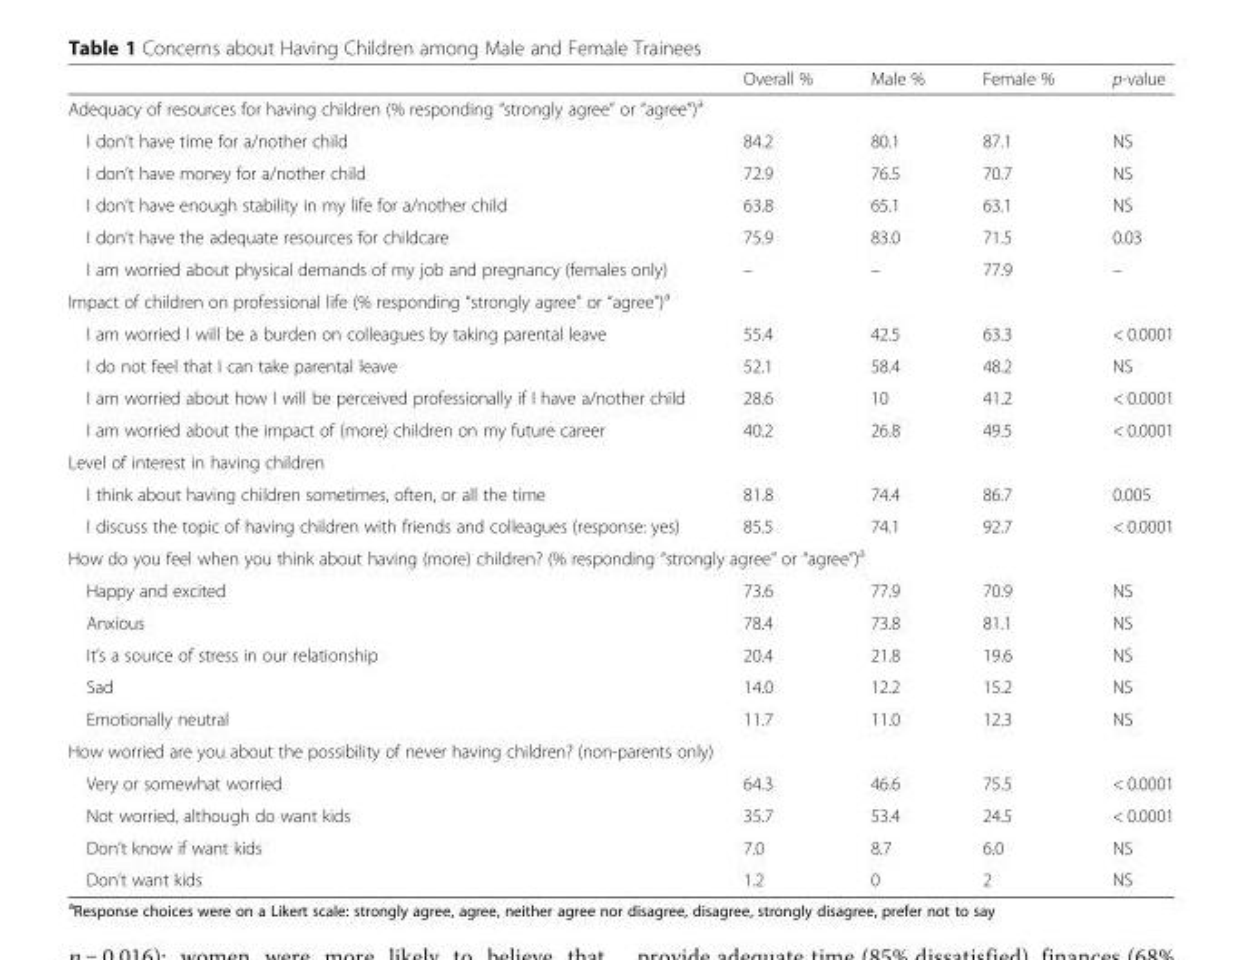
<table><thead><tr><td></td><td>Overall %</td><td>Male %</td><td>Female %</td><td>p-value</td></tr></thead><tbody><tr><td colspan="5">Adequacy of resources for having children (% responding “strongly agree” or “agree”)<sup>a</sup></td></tr><tr><td>I don’t have time for a/nother child</td><td>84.2</td><td>80.1</td><td>87.1</td><td>NS</td></tr><tr><td>I don’t have money for a/nother child</td><td>72.9</td><td>76.5</td><td>70.7</td><td>NS</td></tr><tr><td>I don’t have enough stability in my life for a/nother child</td><td>63.8</td><td>65.1</td><td>63.1</td><td>NS</td></tr><tr><td>I don’t have the adequate resources for childcare</td><td>75.9</td><td>83.0</td><td>71.5</td><td>0.03</td></tr><tr><td>I am worried about physical demands of my job and pregnancy (females only)</td><td>–</td><td>–</td><td>77.9</td><td>–</td></tr><tr><td colspan="5">Impact of children on professional life (% responding “strongly agree” or “agree”)<sup>a</sup></td></tr><tr><td>I am worried I will be a burden on colleagues by taking parental leave</td><td>55.4</td><td>42.5</td><td>63.3</td><td>&lt; 0.0001</td></tr><tr><td>I do not feel that I can take parental leave</td><td>52.1</td><td>58.4</td><td>48.2</td><td>NS</td></tr><tr><td>I am worried about how I will be perceived professionally if I have a/nother child</td><td>28.6</td><td>10</td><td>41.2</td><td>&lt; 0.0001</td></tr><tr><td>I am worried about the impact of (more) children on my future career</td><td>40.2</td><td>26.8</td><td>49.5</td><td>&lt; 0.0001</td></tr><tr><td colspan="5">Level of interest in having children</td></tr><tr><td>I think about having children sometimes, often, or all the time</td><td>81.8</td><td>74.4</td><td>86.7</td><td>0.005</td></tr><tr><td>I discuss the topic of having children with friends and colleagues (response: yes)</td><td>85.5</td><td>74.1</td><td>92.7</td><td>&lt; 0.0001</td></tr><tr><td colspan="5">How do you feel when you think about having (more) children? (% responding “strongly agree” or “agree”)<sup>a</sup></td></tr><tr><td>Happy and excited</td><td>73.6</td><td>77.9</td><td>70.9</td><td>NS</td></tr><tr><td>Anxious</td><td>78.4</td><td>73.8</td><td>81.1</td><td>NS</td></tr><tr><td>It’s a source of stress in our relationship</td><td>20.4</td><td>21.8</td><td>19.6</td><td>NS</td></tr><tr><td>Sad</td><td>14.0</td><td>12.2</td><td>15.2</td><td>NS</td></tr><tr><td>Emotionally neutral</td><td>11.7</td><td>11.0</td><td>12.3</td><td>NS</td></tr><tr><td colspan="5">How worried are you about the possibility of never having children? (non-parents only)</td></tr><tr><td>Very or somewhat worried</td><td>64.3</td><td>46.6</td><td>75.5</td><td>&lt; 0.0001</td></tr><tr><td>Not worried, although do want kids</td><td>35.7</td><td>53.4</td><td>24.5</td><td>&lt; 0.0001</td></tr><tr><td>Don’t know if want kids</td><td>7.0</td><td>8.7</td><td>6.0</td><td>NS</td></tr><tr><td>Don’t want kids</td><td>1.2</td><td>0</td><td>2</td><td>NS</td></tr></tbody></table>